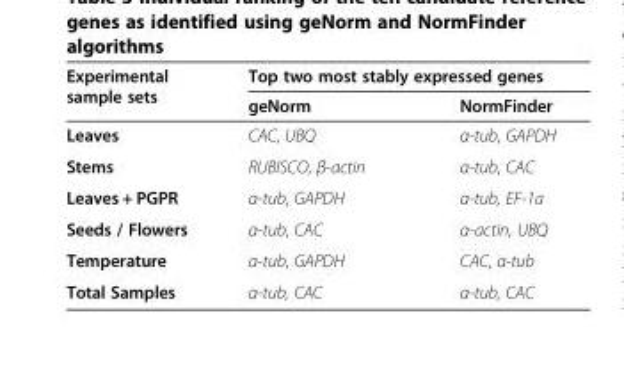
<table><thead><tr><td rowspan="2">Experimental sample sets</td><td colspan="2">Top two most stably expressed genes</td></tr><tr><td>geNorm</td><td>NormFinder</td></tr></thead><tbody><tr><td>Leaves</td><td>CAC, UBQ</td><td>α-tub, GAPDH</td></tr><tr><td>Stems</td><td>RUBISCO, β-actin</td><td>α-tub, CAC</td></tr><tr><td>Leaves + PGPR</td><td>α-tub, GAPDH</td><td>α-tub, EF-1a</td></tr><tr><td>Seeds / Flowers</td><td>α-tub, CAC</td><td>α-actin, UBQ</td></tr><tr><td>Temperature</td><td>α-tub, GAPDH</td><td>CAC, α-tub</td></tr><tr><td>Total Samples</td><td>α-tub, CAC</td><td>α-tub, CAC</td></tr></tbody></table>